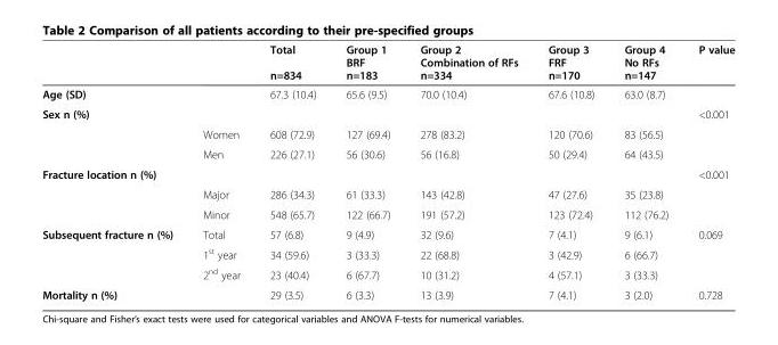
<table><thead><tr><td></td><td></td><td>Total n=834</td><td>Group 1 BRF n=183</td><td>Group 2 Combination of RFs n=334</td><td>Group 3 FRF n=170</td><td>Group 4 No RFs n=147</td><td>P value</td></tr></thead><tbody><tr><td>Age (SD)</td><td></td><td>67.3 (10.4)</td><td>65.6 (9.5)</td><td>70.0 (10.4)</td><td>67.6 (10.8)</td><td>63.0 (8.7)</td><td></td></tr><tr><td rowspan="3">Sex n (%)</td><td></td><td></td><td></td><td></td><td></td><td></td><td>&lt;0.001</td></tr><tr><td>Women</td><td>608 (72.9)</td><td>127 (69.4)</td><td>278 (83.2)</td><td>120 (70.6)</td><td>83 (56.5)</td><td></td></tr><tr><td>Men</td><td>226 (27.1)</td><td>56 (30.6)</td><td>56 (16.8)</td><td>50 (29.4)</td><td>64 (43.5)</td><td></td></tr><tr><td rowspan="3">Fracture location n (%)</td><td></td><td></td><td></td><td></td><td></td><td></td><td>&lt;0.001</td></tr><tr><td>Major</td><td>286 (34.3)</td><td>61 (33.3)</td><td>143 (42.8)</td><td>47 (27.6)</td><td>35 (23.8)</td><td></td></tr><tr><td>Minor</td><td>548 (65.7)</td><td>122 (66.7)</td><td>191 (57.2)</td><td>123 (72.4)</td><td>112 (76.2)</td><td></td></tr><tr><td rowspan="3">Subsequent fracture n (%)</td><td>Total</td><td>57 (6.8)</td><td>9 (4.9)</td><td>32 (9.6)</td><td>7 (4.1)</td><td>9 (6.1)</td><td>0.069</td></tr><tr><td>1<sup>st</sup> year</td><td>34 (59.6)</td><td>3 (33.3)</td><td>22 (68.8)</td><td>3 (42.9)</td><td>6 (66.7)</td><td></td></tr><tr><td>2<sup>nd</sup> year</td><td>23 (40.4)</td><td>6 (67.7)</td><td>10 (31.2)</td><td>4 (57.1)</td><td>3 (33.3)</td><td></td></tr><tr><td>Mortality n (%)</td><td></td><td>29 (3.5)</td><td>6 (3.3)</td><td>13 (3.9)</td><td>7 (4.1)</td><td>3 (2.0)</td><td>0.728</td></tr></tbody></table>